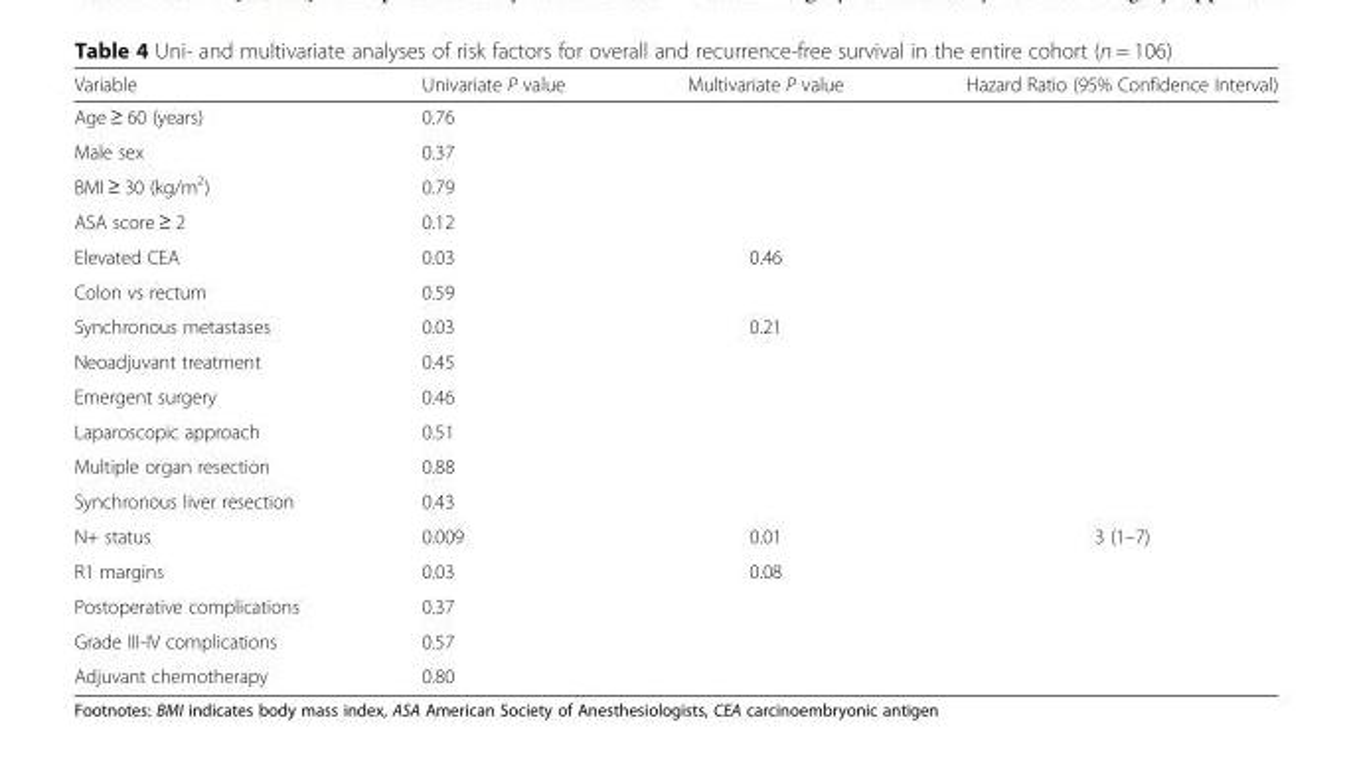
<table><thead><tr><td>Variable</td><td>Univariate P value</td><td>Multivariate P value</td><td>Hazard Ratio (95% Confidence Interval)</td></tr></thead><tbody><tr><td>Age ≥ 60 (years)</td><td>0.76</td><td></td><td></td></tr><tr><td>Male sex</td><td>0.37</td><td></td><td></td></tr><tr><td>BMI ≥ 30 (kg/m<sup>2</sup>)</td><td>0.79</td><td></td><td></td></tr><tr><td>ASA score ≥ 2</td><td>0.12</td><td></td><td></td></tr><tr><td>Elevated CEA</td><td>0.03</td><td>0.46</td><td></td></tr><tr><td>Colon vs rectum</td><td>0.59</td><td></td><td></td></tr><tr><td>Synchronous metastases</td><td>0.03</td><td>0.21</td><td></td></tr><tr><td>Neoadjuvant treatment</td><td>0.45</td><td></td><td></td></tr><tr><td>Emergent surgery</td><td>0.46</td><td></td><td></td></tr><tr><td>Laparoscopic approach</td><td>0.51</td><td></td><td></td></tr><tr><td>Multiple organ resection</td><td>0.88</td><td></td><td></td></tr><tr><td>Synchronous liver resection</td><td>0.43</td><td></td><td></td></tr><tr><td>N+ status</td><td>0.009</td><td>0.01</td><td>3 (1–7)</td></tr><tr><td>R1 margins</td><td>0.03</td><td>0.08</td><td></td></tr><tr><td>Postoperative complications</td><td>0.37</td><td></td><td></td></tr><tr><td>Grade III-IV complications</td><td>0.57</td><td></td><td></td></tr><tr><td>Adjuvant chemotherapy</td><td>0.80</td><td></td><td></td></tr></tbody></table>